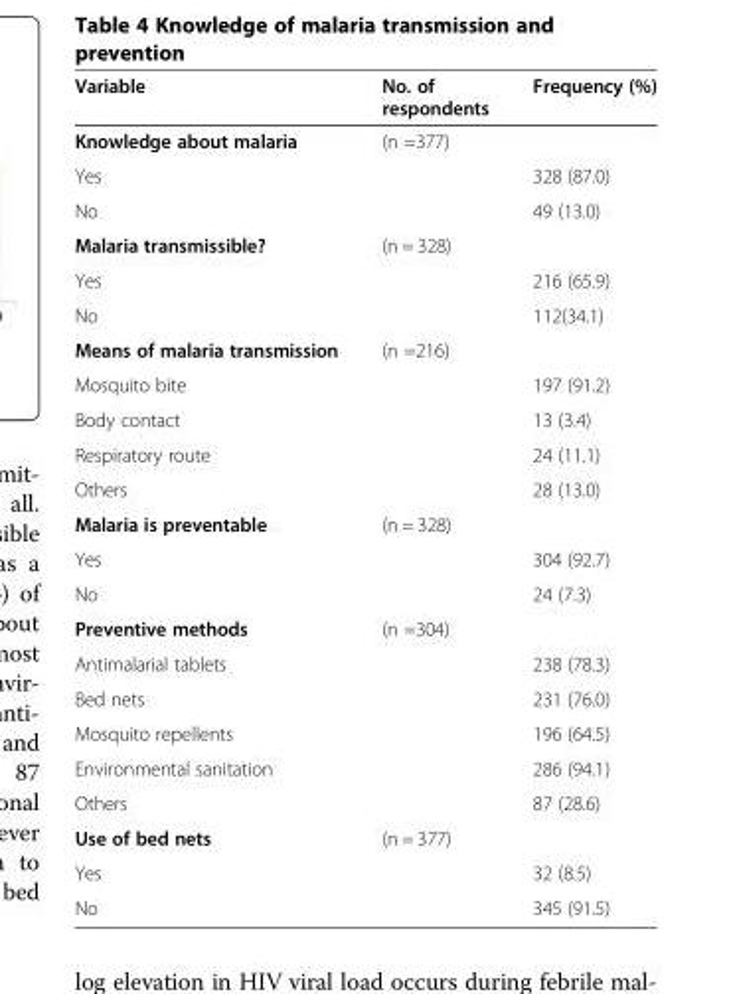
<table><thead><tr><td>Variable</td><td>No. of respondents</td><td>Frequency (%)</td></tr></thead><tbody><tr><td>Knowledge about malaria</td><td>(n =377)</td><td></td></tr><tr><td>Yes</td><td></td><td>328 (87.0)</td></tr><tr><td>No</td><td></td><td>49 (13.0)</td></tr><tr><td>Malaria transmissible?</td><td>(n = 328)</td><td></td></tr><tr><td>Yes</td><td></td><td>216 (65.9)</td></tr><tr><td>No</td><td></td><td>112(34.1)</td></tr><tr><td>Means of malaria transmission</td><td>(n =216)</td><td></td></tr><tr><td>Mosquito bite</td><td></td><td>197 (91.2)</td></tr><tr><td>Body contact</td><td></td><td>13 (3.4)</td></tr><tr><td>Respiratory route</td><td></td><td>24 (11.1)</td></tr><tr><td>Others</td><td></td><td>28 (13.0)</td></tr><tr><td>Malaria is preventable</td><td>(n = 328)</td><td></td></tr><tr><td>Yes</td><td></td><td>304 (92.7)</td></tr><tr><td>No</td><td></td><td>24 (7.3)</td></tr><tr><td>Preventive methods</td><td>(n =304)</td><td></td></tr><tr><td>Antimalarial tablets</td><td></td><td>238 (78.3)</td></tr><tr><td>Bed nets</td><td></td><td>231 (76.0)</td></tr><tr><td>Mosquito repellents</td><td></td><td>196 (64.5)</td></tr><tr><td>Environmental sanitation</td><td></td><td>286 (94.1)</td></tr><tr><td>Others</td><td></td><td>87 (28.6)</td></tr><tr><td>Use of bed nets</td><td>(n = 377)</td><td></td></tr><tr><td>Yes</td><td></td><td>32 (8.5)</td></tr><tr><td>No</td><td></td><td>345 (91.5)</td></tr></tbody></table>